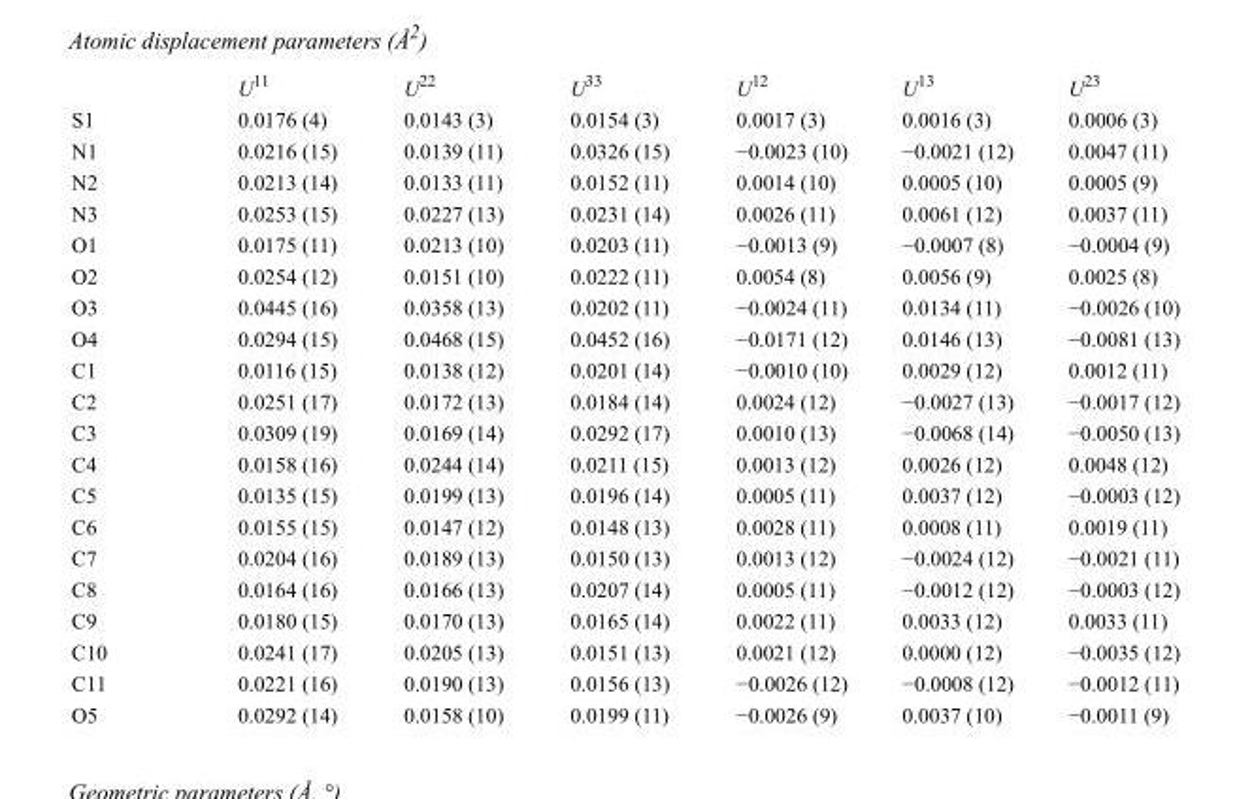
<table><thead><tr><td></td><td>U<sup>11</sup></td><td>U<sup>22</sup></td><td>U<sup>33</sup></td><td>U<sup>12</sup></td><td>U<sup>13</sup></td><td>U<sup>23</sup></td></tr></thead><tbody><tr><td>S1</td><td>0.0176 (4)</td><td>0.0143 (3)</td><td>0.0154 (3)</td><td>0.0017 (3)</td><td>0.0016 (3)</td><td>0.0006 (3)</td></tr><tr><td>N1</td><td>0.0216 (15)</td><td>0.0139 (11)</td><td>0.0326 (15)</td><td>−0.0023 (10)</td><td>−0.0021 (12)</td><td>0.0047 (11)</td></tr><tr><td>N2</td><td>0.0213 (14)</td><td>0.0133 (11)</td><td>0.0152 (11)</td><td>0.0014 (10)</td><td>0.0005 (10)</td><td>0.0005 (9)</td></tr><tr><td>N3</td><td>0.0253 (15)</td><td>0.0227 (13)</td><td>0.0231 (14)</td><td>0.0026 (11)</td><td>0.0061 (12)</td><td>0.0037 (11)</td></tr><tr><td>O1</td><td>0.0175 (11)</td><td>0.0213 (10)</td><td>0.0203 (11)</td><td>−0.0013 (9)</td><td>−0.0007 (8)</td><td>−0.0004 (9)</td></tr><tr><td>O2</td><td>0.0254 (12)</td><td>0.0151 (10)</td><td>0.0222 (11)</td><td>0.0054 (8)</td><td>0.0056 (9)</td><td>0.0025 (8)</td></tr><tr><td>O3</td><td>0.0445 (16)</td><td>0.0358 (13)</td><td>0.0202 (11)</td><td>−0.0024 (11)</td><td>0.0134 (11)</td><td>−0.0026 (10)</td></tr><tr><td>O4</td><td>0.0294 (15)</td><td>0.0468 (15)</td><td>0.0452 (16)</td><td>−0.0171 (12)</td><td>0.0146 (13)</td><td>−0.0081 (13)</td></tr><tr><td>C1</td><td>0.0116 (15)</td><td>0.0138 (12)</td><td>0.0201 (14)</td><td>−0.0010 (10)</td><td>0.0029 (12)</td><td>0.0012 (11)</td></tr><tr><td>C2</td><td>0.0251 (17)</td><td>0.0172 (13)</td><td>0.0184 (14)</td><td>0.0024 (12)</td><td>−0.0027 (13)</td><td>−0.0017 (12)</td></tr><tr><td>C3</td><td>0.0309 (19)</td><td>0.0169 (14)</td><td>0.0292 (17)</td><td>0.0010 (13)</td><td>−0.0068 (14)</td><td>−0.0050 (13)</td></tr><tr><td>C4</td><td>0.0158 (16)</td><td>0.0244 (14)</td><td>0.0211 (15)</td><td>0.0013 (12)</td><td>0.0026 (12)</td><td>0.0048 (12)</td></tr><tr><td>C5</td><td>0.0135 (15)</td><td>0.0199 (13)</td><td>0.0196 (14)</td><td>0.0005 (11)</td><td>0.0037 (12)</td><td>−0.0003 (12)</td></tr><tr><td>C6</td><td>0.0155 (15)</td><td>0.0147 (12)</td><td>0.0148 (13)</td><td>0.0028 (11)</td><td>0.0008 (11)</td><td>0.0019 (11)</td></tr><tr><td>C7</td><td>0.0204 (16)</td><td>0.0189 (13)</td><td>0.0150 (13)</td><td>0.0013 (12)</td><td>−0.0024 (12)</td><td>−0.0021 (11)</td></tr><tr><td>C8</td><td>0.0164 (16)</td><td>0.0166 (13)</td><td>0.0207 (14)</td><td>0.0005 (11)</td><td>−0.0012 (12)</td><td>−0.0003 (12)</td></tr><tr><td>C9</td><td>0.0180 (15)</td><td>0.0170 (13)</td><td>0.0165 (14)</td><td>0.0022 (11)</td><td>0.0033 (12)</td><td>0.0033 (11)</td></tr><tr><td>C10</td><td>0.0241 (17)</td><td>0.0205 (13)</td><td>0.0151 (13)</td><td>0.0021 (12)</td><td>0.0000 (12)</td><td>−0.0035 (12)</td></tr><tr><td>C11</td><td>0.0221 (16)</td><td>0.0190 (13)</td><td>0.0156 (13)</td><td>−0.0026 (12)</td><td>−0.0008 (12)</td><td>−0.0012 (11)</td></tr><tr><td>O5</td><td>0.0292 (14)</td><td>0.0158 (10)</td><td>0.0199 (11)</td><td>−0.0026 (9)</td><td>0.0037 (10)</td><td>−0.0011 (9)</td></tr></tbody></table>